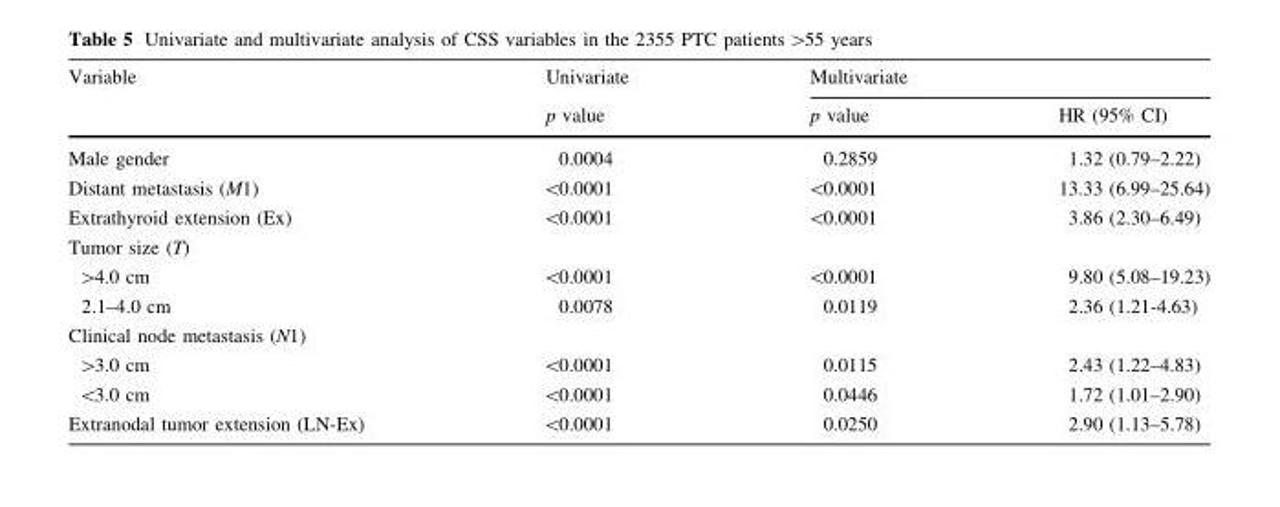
<table><thead><tr><td rowspan="2">Variable</td><td rowspan="2">Univariate p value</td><td colspan="2">Multivariate</td></tr><tr><td>p value</td><td>HR (95% CI)</td></tr></thead><tbody><tr><td>Male gender</td><td>0.0004</td><td>0.2859</td><td>1.32 (0.79–2.22)</td></tr><tr><td>Distant metastasis (M1)</td><td>&lt;0.0001</td><td>&lt;0.0001</td><td>13.33 (6.99–25.64)</td></tr><tr><td>Extrathyroid extension (Ex)</td><td>&lt;0.0001</td><td>&lt;0.0001</td><td>3.86 (2.30–6.49)</td></tr><tr><td colspan="4">Tumor size (T)</td></tr><tr><td>&gt;4.0 cm</td><td>&lt;0.0001</td><td>&lt;0.0001</td><td>9.80 (5.08–19.23)</td></tr><tr><td>2.1–4.0 cm</td><td>0.0078</td><td>0.0119</td><td>2.36 (1.21-4.63)</td></tr><tr><td colspan="4">Clinical node metastasis (N1)</td></tr><tr><td>&gt;3.0 cm</td><td>&lt;0.0001</td><td>0.0115</td><td>2.43 (1.22–4.83)</td></tr><tr><td>&lt;3.0 cm</td><td>&lt;0.0001</td><td>0.0446</td><td>1.72 (1.01–2.90)</td></tr><tr><td>Extranodal tumor extension (LN-Ex)</td><td>&lt;0.0001</td><td>0.0250</td><td>2.90 (1.13–5.78)</td></tr></tbody></table>